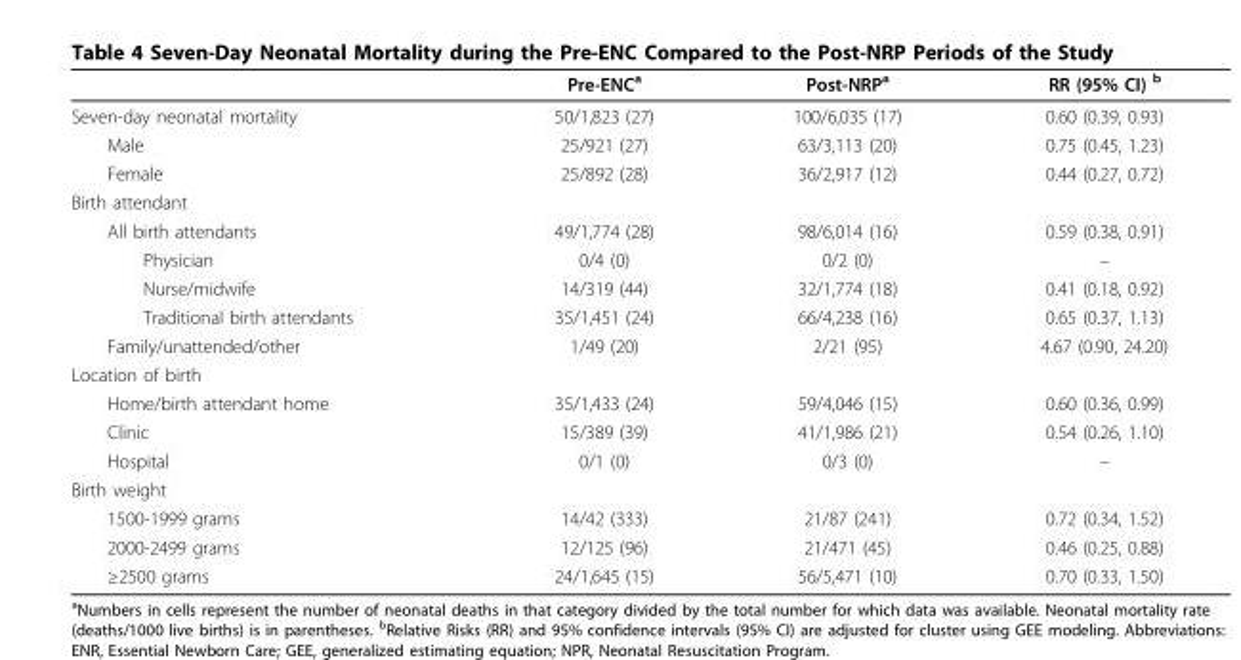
<table><thead><tr><td></td><td>Pre-ENC<sup>a</sup></td><td>Post-NRP<sup>a</sup></td><td>RR (95% CI) <sup>b</sup></td></tr></thead><tbody><tr><td>Seven-day neonatal mortality</td><td>50/1,823 (27)</td><td>100/6,035 (17)</td><td>0.60 (0.39, 0.93)</td></tr><tr><td>Male</td><td>25/921 (27)</td><td>63/3,113 (20)</td><td>0.75 (0.45, 1.23)</td></tr><tr><td>Female</td><td>25/892 (28)</td><td>36/2,917 (12)</td><td>0.44 (0.27, 0.72)</td></tr><tr><td colspan="4">Birth attendant</td></tr><tr><td>All birth attendants</td><td>49/1,774 (28)</td><td>98/6,014 (16)</td><td>0.59 (0.38, 0.91)</td></tr><tr><td>Physician</td><td>0/4 (0)</td><td>0/2 (0)</td><td>–</td></tr><tr><td>Nurse/midwife</td><td>14/319 (44)</td><td>32/1,774 (18)</td><td>0.41 (0.18, 0.92)</td></tr><tr><td>Traditional birth attendants</td><td>35/1,451 (24)</td><td>66/4,238 (16)</td><td>0.65 (0.37, 1.13)</td></tr><tr><td>Family/unattended/other</td><td>1/49 (20)</td><td>2/21 (95)</td><td>4.67 (0.90, 24.20)</td></tr><tr><td colspan="4">Location of birth</td></tr><tr><td>Home/birth attendant home</td><td>35/1,433 (24)</td><td>59/4,046 (15)</td><td>0.60 (0.36, 0.99)</td></tr><tr><td>Clinic</td><td>15/389 (39)</td><td>41/1,986 (21)</td><td>0.54 (0.26, 1.10)</td></tr><tr><td>Hospital</td><td>0/1 (0)</td><td>0/3 (0)</td><td>–</td></tr><tr><td colspan="4">Birth weight</td></tr><tr><td>1500-1999 grams</td><td>14/42 (333)</td><td>21/87 (241)</td><td>0.72 (0.34, 1.52)</td></tr><tr><td>2000-2499 grams</td><td>12/125 (96)</td><td>21/471 (45)</td><td>0.46 (0.25, 0.88)</td></tr><tr><td>≥2500 grams</td><td>24/1,645 (15)</td><td>56/5,471 (10)</td><td>0.70 (0.33, 1.50)</td></tr></tbody></table>